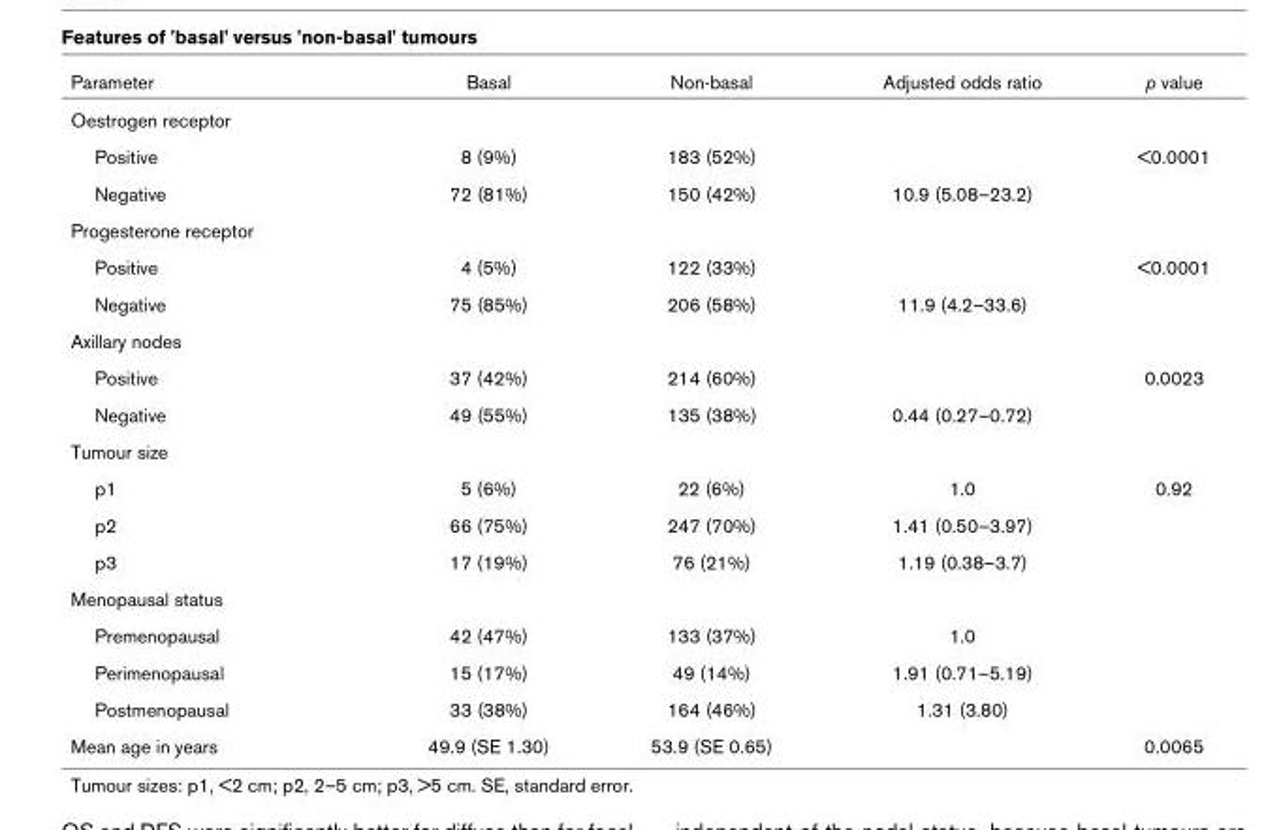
<table><thead><tr><td>Parameter</td><td>Basal</td><td>Non-basal</td><td>Adjusted odds ratio</td><td>p value</td></tr></thead><tbody><tr><td colspan="5">Oestrogen receptor</td></tr><tr><td>Positive</td><td>8 (9%)</td><td>183 (52%)</td><td></td><td>&lt;0.0001</td></tr><tr><td>Negative</td><td>72 (81%)</td><td>150 (42%)</td><td>10.9 (5.08–23.2)</td><td></td></tr><tr><td colspan="5">Progesterone receptor</td></tr><tr><td>Positive</td><td>4 (5%)</td><td>122 (33%)</td><td></td><td>&lt;0.0001</td></tr><tr><td>Negative</td><td>75 (85%)</td><td>206 (58%)</td><td>11.9 (4.2–33.6)</td><td></td></tr><tr><td colspan="5">Axillary nodes</td></tr><tr><td>Positive</td><td>37 (42%)</td><td>214 (60%)</td><td></td><td>0.0023</td></tr><tr><td>Negative</td><td>49 (55%)</td><td>135 (38%)</td><td>0.44 (0.27–0.72)</td><td></td></tr><tr><td colspan="5">Tumour size</td></tr><tr><td>p1</td><td>5 (6%)</td><td>22 (6%)</td><td>1.0</td><td>0.92</td></tr><tr><td>p2</td><td>66 (75%)</td><td>247 (70%)</td><td>1.41 (0.50–3.97)</td><td></td></tr><tr><td>p3</td><td>17 (19%)</td><td>76 (21%)</td><td>1.19 (0.38–3.7)</td><td></td></tr><tr><td colspan="5">Menopausal status</td></tr><tr><td>Premenopausal</td><td>42 (47%)</td><td>133 (37%)</td><td>1.0</td><td></td></tr><tr><td>Perimenopausal</td><td>15 (17%)</td><td>49 (14%)</td><td>1.91 (0.71–5.19)</td><td></td></tr><tr><td>Postmenopausal</td><td>33 (38%)</td><td>164 (46%)</td><td>1.31 (3.80)</td><td></td></tr><tr><td>Mean age in years</td><td>49.9 (SE 1.30)</td><td>53.9 (SE 0.65)</td><td></td><td>0.0065</td></tr></tbody></table>